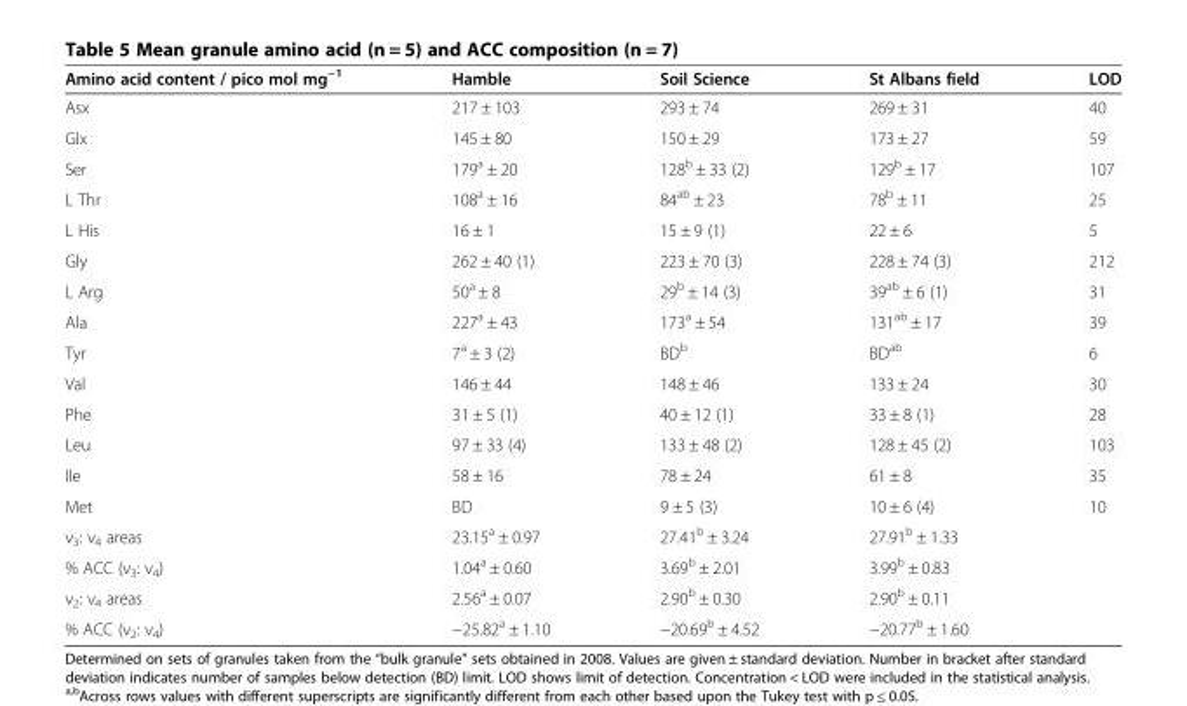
<table><thead><tr><td>Amino acid content / pico mol mg<sup>−1</sup></td><td>Hamble</td><td>Soil Science</td><td>St Albans field</td><td>LOD</td></tr></thead><tbody><tr><td>Asx</td><td>217 ± 103</td><td>293 ± 74</td><td>269 ± 31</td><td>40</td></tr><tr><td>Glx</td><td>145 ± 80</td><td>150 ± 29</td><td>173 ± 27</td><td>59</td></tr><tr><td>Ser</td><td>179<sup>a</sup> ± 20</td><td>128<sup>b</sup> ± 33 (2)</td><td>129<sup>b</sup> ± 17</td><td>107</td></tr><tr><td>L Thr</td><td>108<sup>a</sup> ± 16</td><td>84<sup>ab</sup> ± 23</td><td>78<sup>b</sup> ± 11</td><td>25</td></tr><tr><td>L His</td><td>16 ± 1</td><td>15 ± 9 (1)</td><td>22 ± 6</td><td>5</td></tr><tr><td>Gly</td><td>262 ± 40 (1)</td><td>223 ± 70 (3)</td><td>228 ± 74 (3)</td><td>212</td></tr><tr><td>L Arg</td><td>50<sup>a</sup> ± 8</td><td>29<sup>b</sup> ± 14 (3)</td><td>39<sup>ab</sup> ± 6 (1)</td><td>31</td></tr><tr><td>Ala</td><td>227<sup>a</sup> ± 43</td><td>173<sup>a</sup> ± 54</td><td>131<sup>ab</sup> ± 17</td><td>39</td></tr><tr><td>Tyr</td><td>7<sup>a</sup> ± 3 (2)</td><td>BD<sup>b</sup></td><td>BD<sup>ab</sup></td><td>6</td></tr><tr><td>Val</td><td>146 ± 44</td><td>148 ± 46</td><td>133 ± 24</td><td>30</td></tr><tr><td>Phe</td><td>31 ± 5 (1)</td><td>40 ± 12 (1)</td><td>33 ± 8 (1)</td><td>28</td></tr><tr><td>Leu</td><td>97 ± 33 (4)</td><td>133 ± 48 (2)</td><td>128 ± 45 (2)</td><td>103</td></tr><tr><td>Ile</td><td>58 ± 16</td><td>78 ± 24</td><td>61 ± 8</td><td>35</td></tr><tr><td>Met</td><td>BD</td><td>9 ± 5 (3)</td><td>10 ± 6 (4)</td><td>10</td></tr><tr><td>ν<sub>3</sub>: ν<sub>4</sub> areas</td><td>23.15<sup>a</sup> ± 0.97</td><td>27.41<sup>b</sup> ± 3.24</td><td>27.91<sup>b</sup> ± 1.33</td><td></td></tr><tr><td>% ACC (ν<sub>3</sub>: ν<sub>4</sub>)</td><td>1.04<sup>a</sup> ± 0.60</td><td>3.69<sup>b</sup> ± 2.01</td><td>3.99<sup>b</sup> ± 0.83</td><td></td></tr><tr><td>ν<sub>2</sub>: ν<sub>4</sub> areas</td><td>2.56<sup>a</sup> ± 0.07</td><td>2.90<sup>b</sup> ± 0.30</td><td>2.90<sup>b</sup> ± 0.11</td><td></td></tr><tr><td>% ACC (ν<sub>2</sub>: ν<sub>4</sub>)</td><td>−25.82<sup>a</sup> ± 1.10</td><td>−20.69<sup>b</sup> ± 4.52</td><td>−20.77<sup>b</sup> ± 1.60</td><td></td></tr></tbody></table>